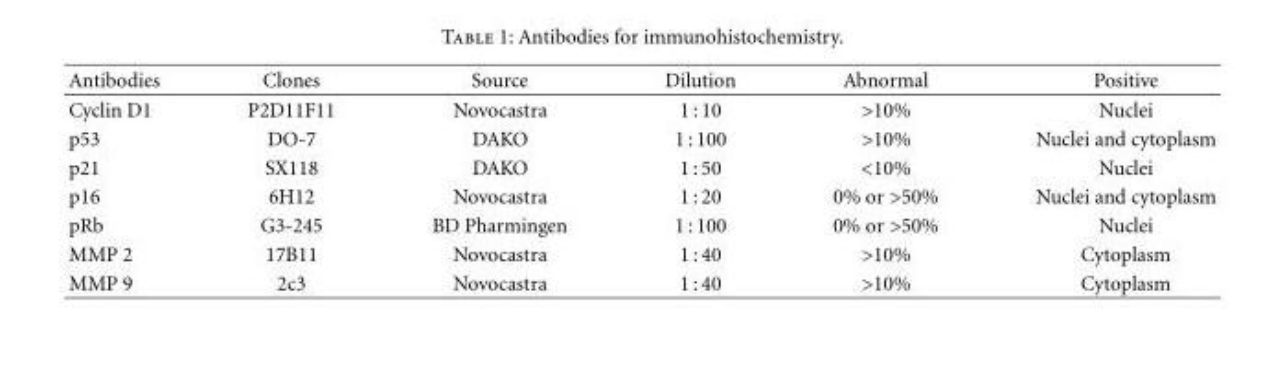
<table><thead><tr><td>Antibodies</td><td>Clones</td><td>Source</td><td>Dilution</td><td>Abnormal</td><td>Positive</td></tr></thead><tbody><tr><td>Cyclin D1</td><td>P2D11F11</td><td>Novocastra</td><td>1 : 10</td><td>&gt;10%</td><td>Nuclei</td></tr><tr><td>p53</td><td>DO-7</td><td>DAKO</td><td>1 : 100</td><td>&gt;10%</td><td>Nuclei and cytoplasm</td></tr><tr><td>p21</td><td>SX118</td><td>DAKO</td><td>1 : 50</td><td>&lt;10%</td><td>Nuclei</td></tr><tr><td>p16</td><td>6H12</td><td>Novocastra</td><td>1 : 20</td><td>0% or &gt;50%</td><td>Nuclei and cytoplasm</td></tr><tr><td>pRb</td><td>G3-245</td><td>BD Pharmingen</td><td>1 : 100</td><td>0% or &gt;50%</td><td>Nuclei</td></tr><tr><td>MMP 2</td><td>17B11</td><td>Novocastra</td><td>1 : 40</td><td>&gt;10%</td><td>Cytoplasm</td></tr><tr><td>MMP 9</td><td>2c3</td><td>Novocastra</td><td>1 : 40</td><td>&gt;10%</td><td>Cytoplasm</td></tr></tbody></table>